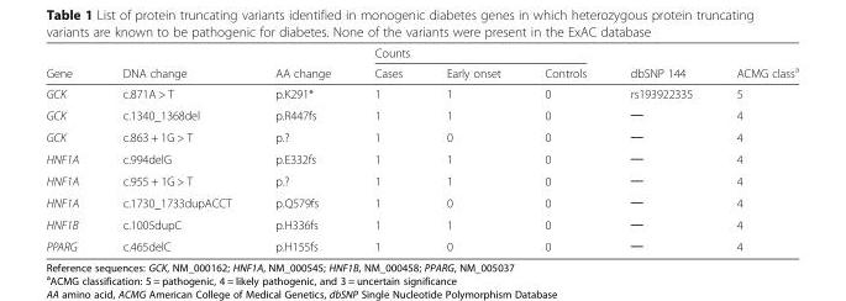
<table><thead><tr><td rowspan="2">Gene</td><td rowspan="2">DNA change</td><td rowspan="2">AA change</td><td colspan="3">Counts</td><td rowspan="2">dbSNP 144</td><td rowspan="2">ACMG class<sup>a</sup></td></tr><tr><td>Cases</td><td>Early onset</td><td>Controls</td></tr></thead><tbody><tr><td>GCK</td><td>c.871A &gt; T</td><td>p.K291*</td><td>1</td><td>1</td><td>0</td><td>rs193922335</td><td>5</td></tr><tr><td>GCK</td><td>c.1340_1368del</td><td>p.R447fs</td><td>1</td><td>1</td><td>0</td><td>─</td><td>4</td></tr><tr><td>GCK</td><td>c.863 + 1G &gt; T</td><td>p.?</td><td>1</td><td>0</td><td>0</td><td>─</td><td>4</td></tr><tr><td>HNF1A</td><td>c.994delG</td><td>p.E332fs</td><td>1</td><td>1</td><td>0</td><td>─</td><td>4</td></tr><tr><td>HNF1A</td><td>c.955 + 1G &gt; T</td><td>p.?</td><td>1</td><td>1</td><td>0</td><td>─</td><td>4</td></tr><tr><td>HNF1A</td><td>c.1730_1733dupACCT</td><td>p.Q579fs</td><td>1</td><td>0</td><td>0</td><td>─</td><td>4</td></tr><tr><td>HNF1B</td><td>c.1005dupC</td><td>p.H336fs</td><td>1</td><td>1</td><td>0</td><td>─</td><td>4</td></tr><tr><td>PPARG</td><td>c.465delC</td><td>p.H155fs</td><td>1</td><td>0</td><td>0</td><td>─</td><td>4</td></tr></tbody></table>